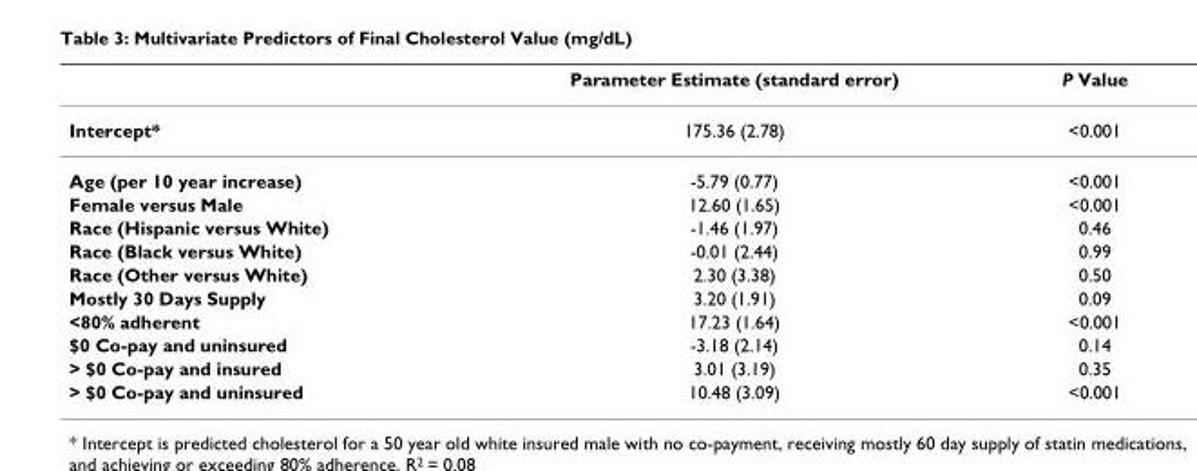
<table><thead><tr><td></td><td>Parameter Estimate (standard error)</td><td>P Value</td></tr></thead><tbody><tr><td>Intercept*</td><td>175.36 (2.78)</td><td>&lt;0.001</td></tr><tr><td>Age (per 10 year increase)</td><td>-5.79 (0.77)</td><td>&lt;0.001</td></tr><tr><td>Female versus Male</td><td>12.60 (1.65)</td><td>&lt;0.001</td></tr><tr><td>Race (Hispanic versus White)</td><td>-1.46 (1.97)</td><td>0.46</td></tr><tr><td>Race (Black versus White)</td><td>-0.01 (2.44)</td><td>0.99</td></tr><tr><td>Race (Other versus White)</td><td>2.30 (3.38)</td><td>0.50</td></tr><tr><td>Mostly 30 Days Supply</td><td>3.20 (1.91)</td><td>0.09</td></tr><tr><td>&lt;80% adherent</td><td>17.23 (1.64)</td><td>&lt;0.001</td></tr><tr><td>$0 Co-pay and uninsured</td><td>-3.18 (2.14)</td><td>0.14</td></tr><tr><td>&gt; $0 Co-pay and insured</td><td>3.01 (3.19)</td><td>0.35</td></tr><tr><td>&gt; $0 Co-pay and uninsured</td><td>10.48 (3.09)</td><td>&lt;0.001</td></tr></tbody></table>